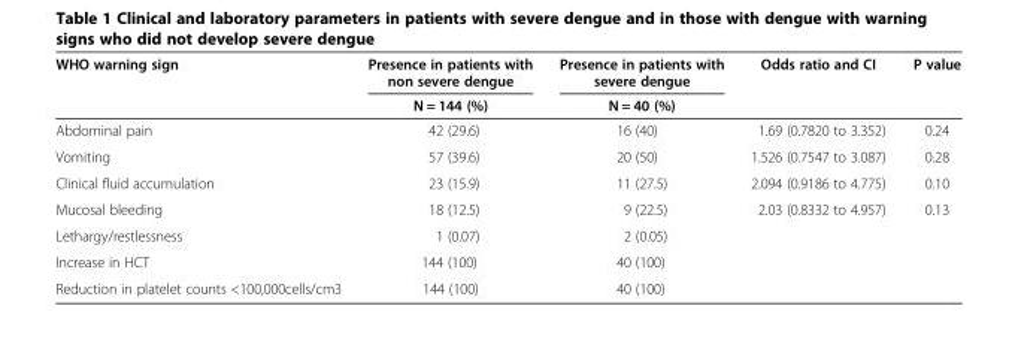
<table><thead><tr><td rowspan="2">WHO warning sign</td><td rowspan="2">Presence in patients with non severe dengue N = 144 (%)</td><td rowspan="2">Presence in patients with severe dengue N = 40 (%)</td><td rowspan="2">Odds ratio and CI</td><td rowspan="2">P value</td></tr><tr></tr></thead><tbody><tr><td>Abdominal pain</td><td>42 (29.6)</td><td>16 (40)</td><td>1.69 (0.7820 to 3.352)</td><td>0.24</td></tr><tr><td>Vomiting</td><td>57 (39.6)</td><td>20 (50)</td><td>1.526 (0.7547 to 3.087)</td><td>0.28</td></tr><tr><td>Clinical fluid accumulation</td><td>23 (15.9)</td><td>11 (27.5)</td><td>2.094 (0.9186 to 4.775)</td><td>0.10</td></tr><tr><td>Mucosal bleeding</td><td>18 (12.5)</td><td>9 (22.5)</td><td>2.03 (0.8332 to 4.957)</td><td>0.13</td></tr><tr><td>Lethargy/restlessness</td><td>1 (0.07)</td><td>2 (0.05)</td><td></td><td></td></tr><tr><td>Increase in HCT</td><td>144 (100)</td><td>40 (100)</td><td></td><td></td></tr><tr><td>Reduction in platelet counts &lt;100,000cells/cm3</td><td>144 (100)</td><td>40 (100)</td><td></td><td></td></tr></tbody></table>